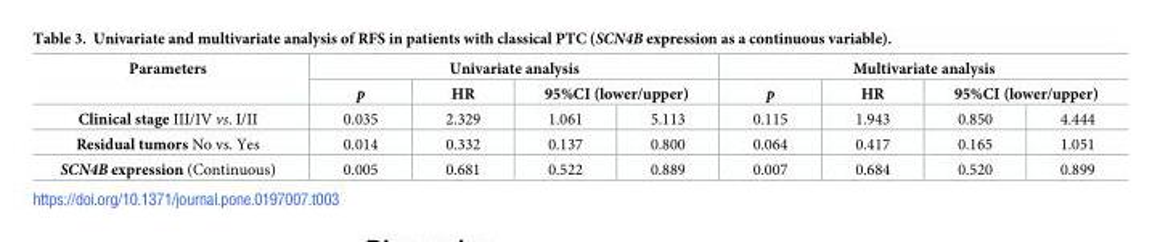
<table><thead><tr><td rowspan="3">Parameters Clinical stage III/IV vs. I/II</td><td colspan="4">Univariate analysis</td><td colspan="4">Multivariate analysis</td></tr><tr><td rowspan="2">p 0.035</td><td rowspan="2">HR 2.329</td><td colspan="2">95%CI (lower/upper)</td><td rowspan="2">p 0.115</td><td rowspan="2">HR 1.943</td><td colspan="2">95%CI (lower/upper)</td></tr><tr><td>1.061</td><td>5.113</td><td>0.850</td><td>4.444</td></tr></thead><tbody><tr><td>Residual tumors No vs. Yes</td><td>0.014</td><td>0.332</td><td>0.137</td><td>0.800</td><td>0.064</td><td>0.417</td><td>0.165</td><td>1.051</td></tr><tr><td>SCN4B expression (Continuous)</td><td>0.005</td><td>0.681</td><td>0.522</td><td>0.889</td><td>0.007</td><td>0.684</td><td>0.520</td><td>0.899</td></tr></tbody></table>